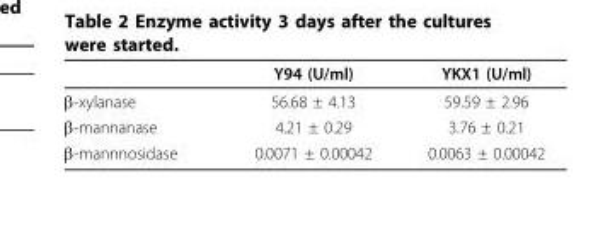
<table><thead><tr><td></td><td>Y94 (U/ml)</td><td>YKX1 (U/ml)</td></tr></thead><tbody><tr><td>β-xylanase</td><td>56.68 ± 4.13</td><td>59.59 ± 2.96</td></tr><tr><td>β-mannanase</td><td>4.21 ± 0.29</td><td>3.76 ± 0.21</td></tr><tr><td>β-mannnosidase</td><td>0.0071 ± 0.00042</td><td>0.0063 ± 0.00042</td></tr></tbody></table>